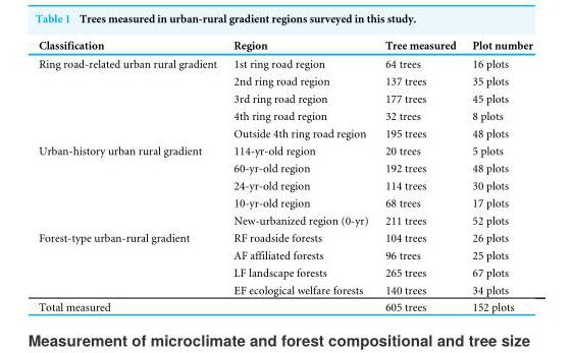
<table><thead><tr><td>Classification</td><td>Region</td><td>Tree measured</td><td>Plot number</td></tr></thead><tbody><tr><td rowspan="5">Ring road-related urban rural gradient</td><td>1st ring road region</td><td>64 trees</td><td>16 plots</td></tr><tr><td>2nd ring road region</td><td>137 trees</td><td>35 plots</td></tr><tr><td>3rd ring road region</td><td>177 trees</td><td>45 plots</td></tr><tr><td>4th ring road region</td><td>32 trees</td><td>8 plots</td></tr><tr><td>Outside 4th ring road region</td><td>195 trees</td><td>48 plots</td></tr><tr><td rowspan="5">Urban-history urban rural gradient</td><td>114-yr-old region</td><td>20 trees</td><td>5 plots</td></tr><tr><td>60-yr-old region</td><td>192 trees</td><td>48 plots</td></tr><tr><td>24-yr-old region</td><td>114 trees</td><td>30 plots</td></tr><tr><td>10-yr-old region</td><td>68 trees</td><td>17 plots</td></tr><tr><td>New-urbanized region (0-yr)</td><td>211 trees</td><td>52 plots</td></tr><tr><td rowspan="4">Forest-type urban-rural gradient</td><td>RF roadside forests</td><td>104 trees</td><td>26 plots</td></tr><tr><td>AF affiliated forests</td><td>96 trees</td><td>25 plots</td></tr><tr><td>LF landscape forests</td><td>265 trees</td><td>67 plots</td></tr><tr><td>EF ecological welfare forests</td><td>140 trees</td><td>34 plots</td></tr><tr><td>Total measured</td><td></td><td>605 trees</td><td>152 plots</td></tr></tbody></table>